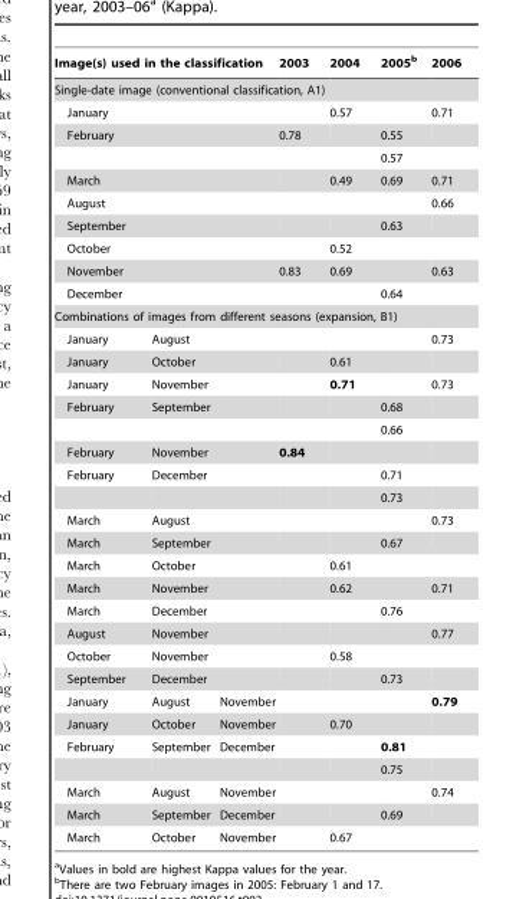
<table><thead><tr><td colspan="3">Image(s) used in the classification</td><td>2003</td><td>2004</td><td>2005<sup>b</sup></td><td>2006</td></tr></thead><tbody><tr><td colspan="7">Single-date image (conventional classification, A1)</td></tr><tr><td colspan="3">January</td><td></td><td>0.57</td><td></td><td>0.71</td></tr><tr><td rowspan="2" colspan="3">February</td><td>0.78</td><td></td><td>0.55</td><td></td></tr><tr><td></td><td></td><td>0.57</td><td></td></tr><tr><td colspan="3">March</td><td></td><td>0.49</td><td>0.69</td><td>0.71</td></tr><tr><td colspan="3">August</td><td></td><td></td><td></td><td>0.66</td></tr><tr><td colspan="3">September</td><td></td><td></td><td>0.63</td><td></td></tr><tr><td colspan="3">October</td><td></td><td>0.52</td><td></td><td></td></tr><tr><td colspan="3">November</td><td>0.83</td><td>0.69</td><td></td><td>0.63</td></tr><tr><td colspan="3">December</td><td></td><td></td><td>0.64</td><td></td></tr><tr><td colspan="7">Combinations of images from different seasons (expansion, B1)</td></tr><tr><td>January</td><td>August</td><td></td><td></td><td></td><td></td><td>0.73</td></tr><tr><td>January</td><td>October</td><td></td><td></td><td>0.61</td><td></td><td></td></tr><tr><td>January</td><td>November</td><td></td><td></td><td>0.71</td><td></td><td>0.73</td></tr><tr><td rowspan="2">February</td><td>September</td><td></td><td></td><td></td><td>0.68</td><td></td></tr><tr><td></td><td></td><td></td><td></td><td>0.66</td><td></td></tr><tr><td>February</td><td>November</td><td></td><td>0.84</td><td></td><td></td><td></td></tr><tr><td rowspan="2">February</td><td>December</td><td></td><td></td><td></td><td>0.71</td><td></td></tr><tr><td></td><td></td><td></td><td></td><td>0.73</td><td></td></tr><tr><td>March</td><td>August</td><td></td><td></td><td></td><td></td><td>0.73</td></tr><tr><td>March</td><td>September</td><td></td><td></td><td></td><td>0.67</td><td></td></tr><tr><td>March</td><td>October</td><td></td><td></td><td>0.61</td><td></td><td></td></tr><tr><td>March</td><td>November</td><td></td><td></td><td>0.62</td><td></td><td>0.71</td></tr><tr><td>March</td><td>December</td><td></td><td></td><td></td><td>0.76</td><td></td></tr><tr><td>August</td><td>November</td><td></td><td></td><td></td><td></td><td>0.77</td></tr><tr><td>October</td><td>November</td><td></td><td></td><td>0.58</td><td></td><td></td></tr><tr><td>September</td><td>December</td><td></td><td></td><td></td><td>0.73</td><td></td></tr><tr><td>January</td><td>August</td><td>November</td><td></td><td></td><td></td><td>0.79</td></tr><tr><td>January</td><td>October</td><td>November</td><td></td><td>0.70</td><td></td><td></td></tr><tr><td rowspan="2">February</td><td>September</td><td>December</td><td></td><td></td><td>0.81</td><td></td></tr><tr><td></td><td></td><td></td><td></td><td>0.75</td><td></td></tr><tr><td>March</td><td>August</td><td>November</td><td></td><td></td><td></td><td>0.74</td></tr><tr><td>March</td><td>September</td><td>December</td><td></td><td></td><td>0.69</td><td></td></tr><tr><td>March</td><td>October</td><td>November</td><td></td><td>0.67</td><td></td><td></td></tr></tbody></table>